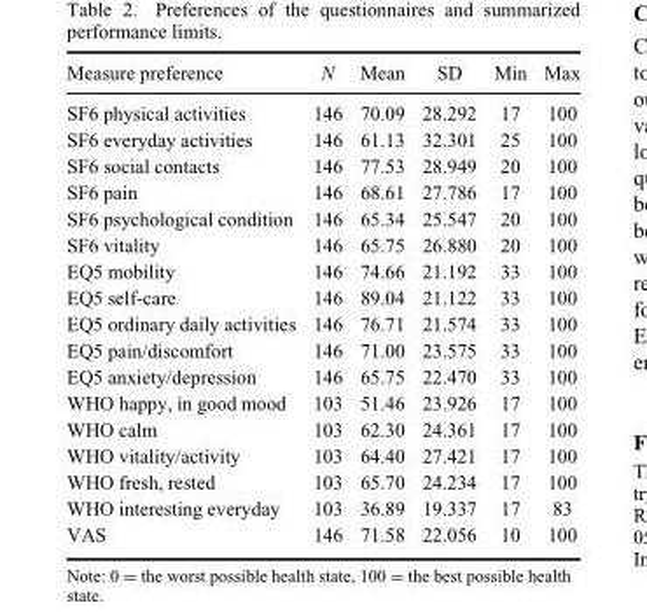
<table><thead><tr><td>Measure preference</td><td>N</td><td>Mean</td><td>SD</td><td>Min</td><td>Max</td></tr></thead><tbody><tr><td>SF6 physical activities</td><td>146</td><td>70.09</td><td>28.292</td><td>17</td><td>100</td></tr><tr><td>SF6 everyday activities</td><td>146</td><td>61.13</td><td>32.301</td><td>25</td><td>100</td></tr><tr><td>SF6 social contacts</td><td>146</td><td>77.53</td><td>28.949</td><td>20</td><td>100</td></tr><tr><td>SF6 pain</td><td>146</td><td>68.61</td><td>27.786</td><td>17</td><td>100</td></tr><tr><td>SF6 psychological condition</td><td>146</td><td>65.34</td><td>25.547</td><td>20</td><td>100</td></tr><tr><td>SF6 vitality</td><td>146</td><td>65.75</td><td>26.880</td><td>20</td><td>100</td></tr><tr><td>EQ5 mobility</td><td>146</td><td>74.66</td><td>21.192</td><td>33</td><td>100</td></tr><tr><td>EQ5 self-care</td><td>146</td><td>89.04</td><td>21.122</td><td>33</td><td>100</td></tr><tr><td>EQ5 ordinary daily activities</td><td>146</td><td>76.71</td><td>21.574</td><td>33</td><td>100</td></tr><tr><td>EQ5 pain/discomfort</td><td>146</td><td>71.00</td><td>23.575</td><td>33</td><td>100</td></tr><tr><td>EQ5 anxiety/depression</td><td>146</td><td>65.75</td><td>22.470</td><td>33</td><td>100</td></tr><tr><td>WHO happy, in good mood</td><td>103</td><td>51.46</td><td>23.926</td><td>17</td><td>100</td></tr><tr><td>WHO calm</td><td>103</td><td>62.30</td><td>24.361</td><td>17</td><td>100</td></tr><tr><td>WHO vitality/activity</td><td>103</td><td>64.40</td><td>27.421</td><td>17</td><td>100</td></tr><tr><td>WHO fresh, rested</td><td>103</td><td>65.70</td><td>24.234</td><td>17</td><td>100</td></tr><tr><td>WHO interesting everyday</td><td>103</td><td>36.89</td><td>19.337</td><td>17</td><td>83</td></tr><tr><td>VAS</td><td>146</td><td>71.58</td><td>22.056</td><td>10</td><td>100</td></tr></tbody></table>